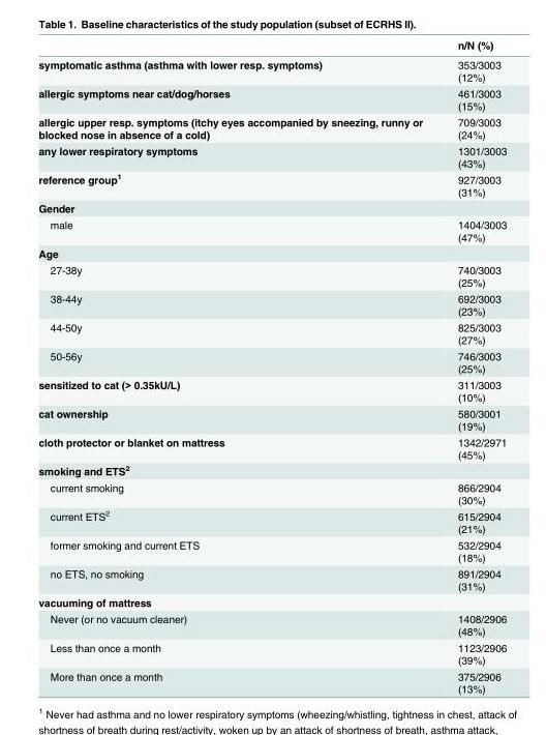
<table><thead><tr><td></td><td>n/N (%)</td></tr></thead><tbody><tr><td>symptomatic asthma (asthma with lower resp. symptoms)</td><td>353/3003 (12%)</td></tr><tr><td>allergic symptoms near cat/dog/horses</td><td>461/3003 (15%)</td></tr><tr><td>allergic upper resp. symptoms (itchy eyes accompanied by sneezing, runny or blocked nose in absence of a cold)</td><td>709/3003 (24%)</td></tr><tr><td>any lower respiratory symptoms</td><td>1301/3003 (43%)</td></tr><tr><td>reference group<sup>1</sup></td><td>927/3003 (31%)</td></tr><tr><td colspan="2">Gender</td></tr><tr><td>male</td><td>1404/3003 (47%)</td></tr><tr><td colspan="2">Age</td></tr><tr><td>27-38y</td><td>740/3003 (25%)</td></tr><tr><td>38-44y</td><td>692/3003 (23%)</td></tr><tr><td>44-50y</td><td>825/3003 (27%)</td></tr><tr><td>50-56y</td><td>746/3003 (25%)</td></tr><tr><td>sensitized to cat (&gt; 0.35kU/L)</td><td>311/3003 (10%)</td></tr><tr><td>cat ownership</td><td>580/3001 (19%)</td></tr><tr><td>cloth protector or blanket on mattress</td><td>1342/2971 (45%)</td></tr><tr><td colspan="2">smoking and ETS<sup>2</sup></td></tr><tr><td>current smoking</td><td>866/2904 (30%)</td></tr><tr><td>current ETS<sup>2</sup></td><td>615/2904 (21%)</td></tr><tr><td>former smoking and current ETS</td><td>532/2904 (18%)</td></tr><tr><td>no ETS, no smoking</td><td>891/2904 (31%)</td></tr><tr><td colspan="2">vacuuming of mattress</td></tr><tr><td>Never (or no vacuum cleaner)</td><td>1408/2906 (48%)</td></tr><tr><td>Less than once a month</td><td>1123/2906 (39%)</td></tr><tr><td>More than once a month</td><td>375/2906 (13%)</td></tr></tbody></table>